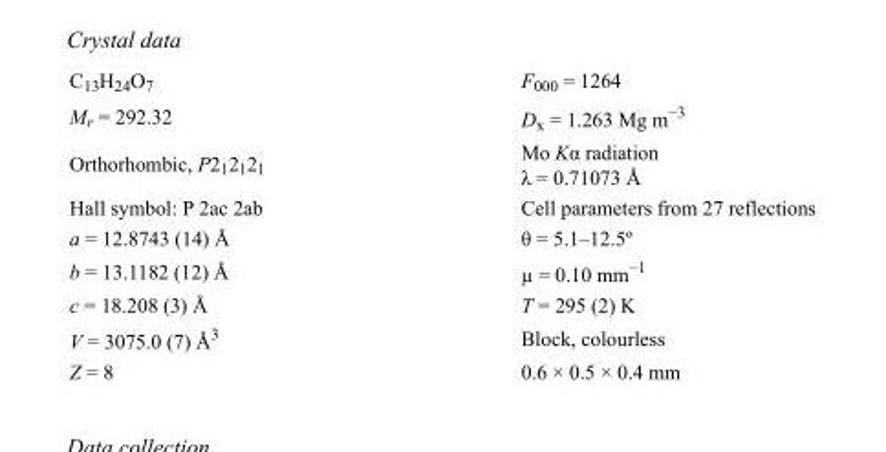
<table><tbody><tr><td>C<sub>13</sub>H<sub>24</sub>O<sub>7</sub></td><td>F<sub>000</sub> = 1264</td></tr><tr><td>M<sub>r</sub> = 292.32</td><td>D<sub>x</sub> = 1.263 Mg m<sup>−3</sup></td></tr><tr><td>Orthorhombic, P2<sub>1</sub>2<sub>1</sub>2<sub>1</sub></td><td>Mo Kα radiation λ = 0.71073 Å</td></tr><tr><td>Hall symbol: P 2ac 2ab</td><td>Cell parameters from 27 reflections</td></tr><tr><td>a = 12.8743 (14) Å</td><td>θ = 5.1–12.5º</td></tr><tr><td>b = 13.1182 (12) Å</td><td>µ = 0.10 mm<sup>−1</sup></td></tr><tr><td>c = 18.208 (3) Å</td><td>T = 295 (2) K</td></tr><tr><td>V = 3075.0 (7) Å<sup>3</sup></td><td>Block, colourless</td></tr><tr><td>Z = 8</td><td>0.6 × 0.5 × 0.4 mm</td></tr></tbody></table>